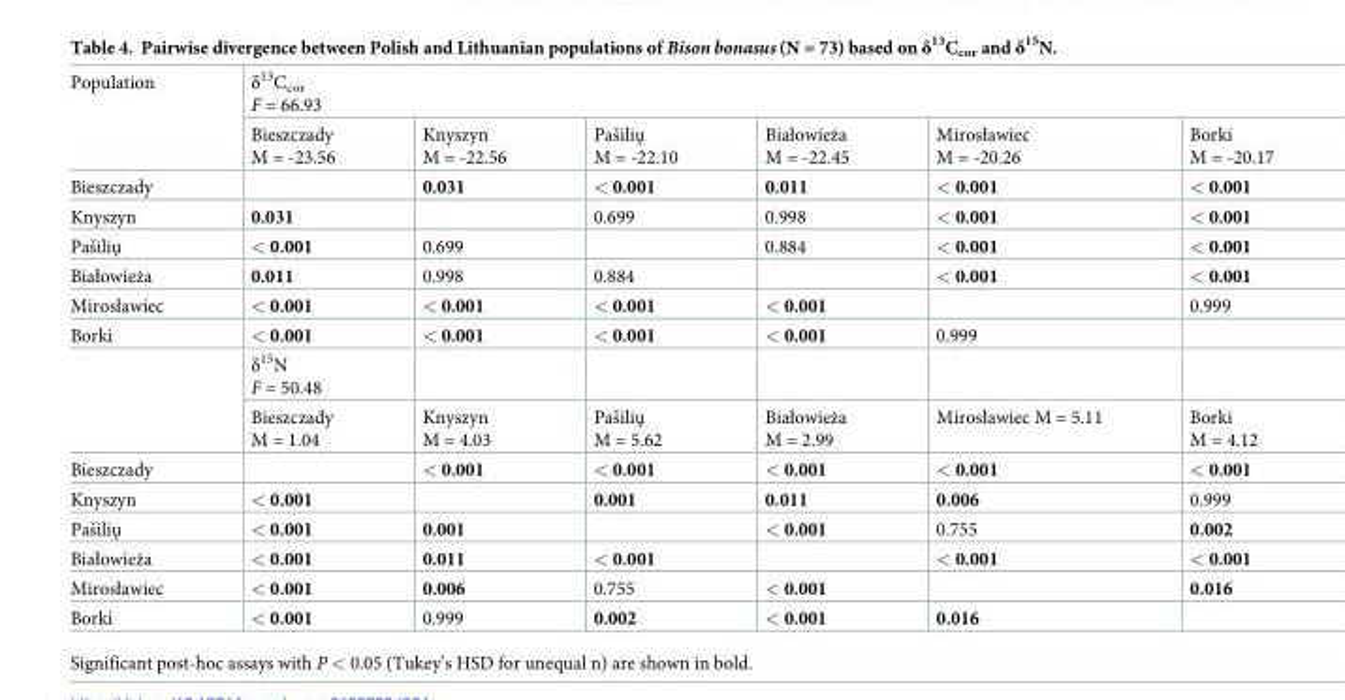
<table><tbody><tr><td rowspan="2">Population</td><td colspan="6">δ<sup>13</sup>C<sub>cor</sub> F = 66.93</td></tr><tr><td>Bieszczady M = -23.56</td><td>Knyszyn M = -22.56</td><td>Pasˇiliu˛ M = -22.10</td><td>Białowieża M = -22.45</td><td>Mirosławiec M = -20.26</td><td>Borki M = -20.17</td></tr><tr><td>Bieszczady</td><td></td><td>0.031</td><td>&lt; 0.001</td><td>0.011</td><td>&lt; 0.001</td><td>&lt; 0.001</td></tr><tr><td>Knyszyn</td><td>0.031</td><td></td><td>0.699</td><td>0.998</td><td>&lt; 0.001</td><td>&lt; 0.001</td></tr><tr><td>Pasˇiliu˛</td><td>&lt; 0.001</td><td>0.699</td><td></td><td>0.884</td><td>&lt; 0.001</td><td>&lt; 0.001</td></tr><tr><td>Białowieża</td><td>0.011</td><td>0.998</td><td>0.884</td><td></td><td>&lt; 0.001</td><td>&lt; 0.001</td></tr><tr><td>Mirosławiec</td><td>&lt; 0.001</td><td>&lt; 0.001</td><td>&lt; 0.001</td><td>&lt; 0.001</td><td></td><td>0.999</td></tr><tr><td rowspan="3">Borki</td><td>&lt; 0.001</td><td>&lt; 0.001</td><td>&lt; 0.001</td><td>&lt; 0.001</td><td>0.999</td><td></td></tr><tr><td>δ<sup>15</sup>N F = 50.48</td><td></td><td></td><td></td><td></td><td></td></tr><tr><td>Bieszczady M = 1.04</td><td>Knyszyn M = 4.03</td><td>Pasˇiliu˛ M = 5.62</td><td>Białowieża M = 2.99</td><td>Mirosławiec M = 5.11</td><td>Borki M = 4.12</td></tr><tr><td>Bieszczady</td><td></td><td>&lt; 0.001</td><td>&lt; 0.001</td><td>&lt; 0.001</td><td>&lt; 0.001</td><td>&lt; 0.001</td></tr><tr><td>Knyszyn</td><td>&lt; 0.001</td><td></td><td>0.001</td><td>0.011</td><td>0.006</td><td>0.999</td></tr><tr><td>Pasˇiliu˛</td><td>&lt; 0.001</td><td>0.001</td><td></td><td>&lt; 0.001</td><td>0.755</td><td>0.002</td></tr><tr><td>Białowieża</td><td>&lt; 0.001</td><td>0.011</td><td>&lt; 0.001</td><td></td><td>&lt; 0.001</td><td>&lt; 0.001</td></tr><tr><td>Mirosławiec</td><td>&lt; 0.001</td><td>0.006</td><td>0.755</td><td>&lt; 0.001</td><td></td><td>0.016</td></tr><tr><td>Borki</td><td>&lt; 0.001</td><td>0.999</td><td>0.002</td><td>&lt; 0.001</td><td>0.016</td><td></td></tr></tbody></table>